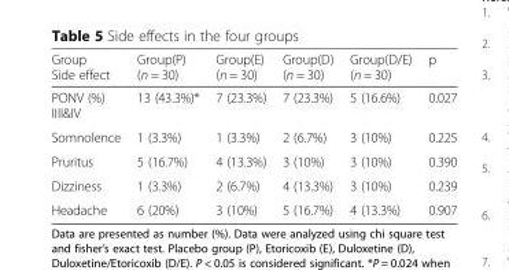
<table><thead><tr><td>Group Side effect</td><td>Group(P) (n = 30)</td><td>Group(E) (n = 30)</td><td>Group(D) (n = 30)</td><td>Group(D/E) (n = 30)</td><td>p</td></tr></thead><tbody><tr><td>PONV (%) IIII&amp;IV</td><td>13 (43.3%)*</td><td>7 (23.3%)</td><td>7 (23.3%)</td><td>5 (16.6%)</td><td>0.027</td></tr><tr><td>Somnolence</td><td>1 (3.3%)</td><td>1 (3.3%)</td><td>2 (6.7%)</td><td>3 (10%)</td><td>0.225</td></tr><tr><td>Pruritus</td><td>5 (16.7%)</td><td>4 (13.3%)</td><td>3 (10%)</td><td>3 (10%)</td><td>0.390</td></tr><tr><td>Dizziness</td><td>1 (3.3%)</td><td>2 (6.7%)</td><td>4 (13.3%)</td><td>3 (10%)</td><td>0.239</td></tr><tr><td>Headache</td><td>6 (20%)</td><td>3 (10%)</td><td>5 (16.7%)</td><td>4 (13.3%)</td><td>0.907</td></tr></tbody></table>